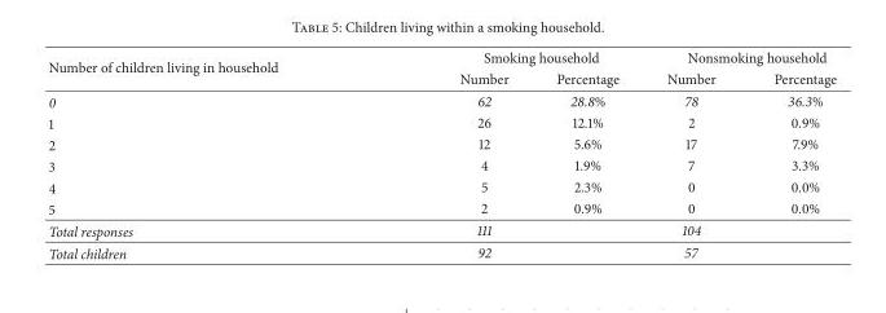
<table><thead><tr><td rowspan="2">Number of children living in household</td><td colspan="2">Smoking household</td><td colspan="2">Nonsmoking household</td></tr><tr><td>Number</td><td>Percentage</td><td>Number</td><td>Percentage</td></tr></thead><tbody><tr><td>0</td><td>62</td><td>28.8%</td><td>78</td><td>36.3%</td></tr><tr><td>1</td><td>26</td><td>12.1%</td><td>2</td><td>0.9%</td></tr><tr><td>2</td><td>12</td><td>5.6%</td><td>17</td><td>7.9%</td></tr><tr><td>3</td><td>4</td><td>1.9%</td><td>7</td><td>3.3%</td></tr><tr><td>4</td><td>5</td><td>2.3%</td><td>0</td><td>0.0%</td></tr><tr><td>5</td><td>2</td><td>0.9%</td><td>0</td><td>0.0%</td></tr><tr><td>Total responses</td><td>111</td><td></td><td>104</td><td></td></tr><tr><td>Total children</td><td>92</td><td></td><td>57</td><td></td></tr></tbody></table>